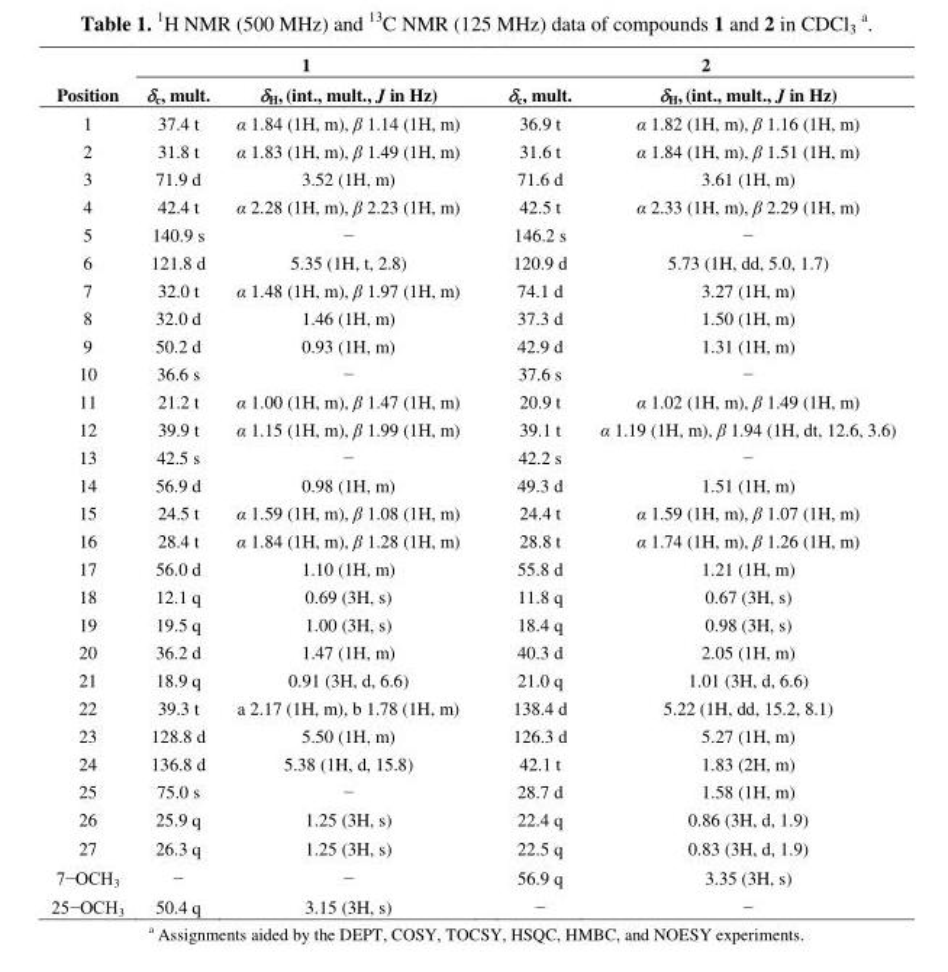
<table><thead><tr><td rowspan="2">Position</td><td colspan="2">1</td><td colspan="2">2</td></tr><tr><td>δ<sub>c</sub>, mult.</td><td>δ<sub>H</sub>, (int., mult., J in Hz)</td><td>δ<sub>c</sub>, mult.</td><td>δ<sub>H</sub>, (int., mult., J in Hz)</td></tr></thead><tbody><tr><td>1</td><td>37.4 t</td><td>α 1.84 (1H, m), β 1.14 (1H, m)</td><td>36.9 t</td><td>α 1.82 (1H, m), β 1.16 (1H, m)</td></tr><tr><td>2</td><td>31.8 t</td><td>α 1.83 (1H, m), β 1.49 (1H, m)</td><td>31.6 t</td><td>α 1.84 (1H, m), β 1.51 (1H, m)</td></tr><tr><td>3</td><td>71.9 d</td><td>3.52 (1H, m)</td><td>71.6 d</td><td>3.61 (1H, m)</td></tr><tr><td>4</td><td>42.4 t</td><td>α 2.28 (1H, m), β 2.23 (1H, m)</td><td>42.5 t</td><td>α 2.33 (1H, m), β 2.29 (1H, m)</td></tr><tr><td>5</td><td>140.9 s</td><td>−</td><td>146.2 s</td><td>−</td></tr><tr><td>6</td><td>121.8 d</td><td>5.35 (1H, t, 2.8)</td><td>120.9 d</td><td>5.73 (1H, dd, 5.0, 1.7)</td></tr><tr><td>7</td><td>32.0 t</td><td>α 1.48 (1H, m), β 1.97 (1H, m)</td><td>74.1 d</td><td>3.27 (1H, m)</td></tr><tr><td>8</td><td>32.0 d</td><td>1.46 (1H, m)</td><td>37.3 d</td><td>1.50 (1H, m)</td></tr><tr><td>9</td><td>50.2 d</td><td>0.93 (1H, m)</td><td>42.9 d</td><td>1.31 (1H, m)</td></tr><tr><td>10</td><td>36.6 s</td><td>−</td><td>37.6 s</td><td>−</td></tr><tr><td>11</td><td>21.2 t</td><td>α 1.00 (1H, m), β 1.47 (1H, m)</td><td>20.9 t</td><td>α 1.02 (1H, m), β 1.49 (1H, m)</td></tr><tr><td>12</td><td>39.9 t</td><td>α 1.15 (1H, m), β 1.99 (1H, m)</td><td>39.1 t</td><td>α 1.19 (1H, m), β 1.94 (1H, dt, 12.6, 3.6)</td></tr><tr><td>13</td><td>42.5 s</td><td>−</td><td>42.2 s</td><td>−</td></tr><tr><td>14</td><td>56.9 d</td><td>0.98 (1H, m)</td><td>49.3 d</td><td>1.51 (1H, m)</td></tr><tr><td>15</td><td>24.5 t</td><td>α 1.59 (1H, m), β 1.08 (1H, m)</td><td>24.4 t</td><td>α 1.59 (1H, m), β 1.07 (1H, m)</td></tr><tr><td>16</td><td>28.4 t</td><td>α 1.84 (1H, m), β 1.28 (1H, m)</td><td>28.8 t</td><td>α 1.74 (1H, m), β 1.26 (1H, m)</td></tr><tr><td>17</td><td>56.0 d</td><td>1.10 (1H, m)</td><td>55.8 d</td><td>1.21 (1H, m)</td></tr><tr><td>18</td><td>12.1 q</td><td>0.69 (3H, s)</td><td>11.8 q</td><td>0.67 (3H, s)</td></tr><tr><td>19</td><td>19.5 q</td><td>1.00 (3H, s)</td><td>18.4 q</td><td>0.98 (3H, s)</td></tr><tr><td>20</td><td>36.2 d</td><td>1.47 (1H, m)</td><td>40.3 d</td><td>2.05 (1H, m)</td></tr><tr><td>21</td><td>18.9 q</td><td>0.91 (3H, d, 6.6)</td><td>21.0 q</td><td>1.01 (3H, d, 6.6)</td></tr><tr><td>22</td><td>39.3 t</td><td>a 2.17 (1H, m), b 1.78 (1H, m)</td><td>138.4 d</td><td>5.22 (1H, dd, 15.2, 8.1)</td></tr><tr><td>23</td><td>128.8 d</td><td>5.50 (1H, m)</td><td>126.3 d</td><td>5.27 (1H, m)</td></tr><tr><td>24</td><td>136.8 d</td><td>5.38 (1H, d, 15.8)</td><td>42.1 t</td><td>1.83 (2H, m)</td></tr><tr><td>25</td><td>75.0 s</td><td>−</td><td>28.7 d</td><td>1.58 (1H, m)</td></tr><tr><td>26</td><td>25.9 q</td><td>1.25 (3H, s)</td><td>22.4 q</td><td>0.86 (3H, d, 1.9)</td></tr><tr><td>27</td><td>26.3 q</td><td>1.25 (3H, s)</td><td>22.5 q</td><td>0.83 (3H, d, 1.9)</td></tr><tr><td>7−OCH<sub>3</sub></td><td>−</td><td>−</td><td>56.9 q</td><td>3.35 (3H, s)</td></tr><tr><td>25−OCH<sub>3</sub></td><td>50.4 q</td><td>3.15 (3H, s)</td><td>−</td><td>−</td></tr></tbody></table>